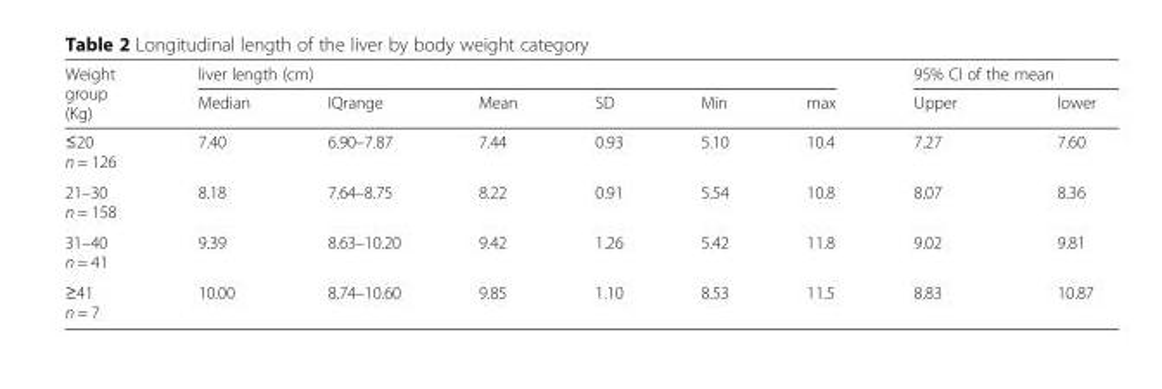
<table><thead><tr><td rowspan="2">Weight group (Kg)</td><td colspan="6">liver length (cm)</td><td colspan="2">95% CI of the mean</td></tr><tr><td>Median</td><td>IQrange</td><td>Mean</td><td>SD</td><td>Min</td><td>max</td><td>Upper</td><td>lower</td></tr></thead><tbody><tr><td>≤20 n = 126</td><td>7.40</td><td>6.90–7.87</td><td>7.44</td><td>0.93</td><td>5.10</td><td>10.4</td><td>7.27</td><td>7.60</td></tr><tr><td>21–30 n = 158</td><td>8.18</td><td>7.64–8.75</td><td>8.22</td><td>0.91</td><td>5.54</td><td>10.8</td><td>8.07</td><td>8.36</td></tr><tr><td>31–40 n = 41</td><td>9.39</td><td>8.63–10.20</td><td>9.42</td><td>1.26</td><td>5.42</td><td>11.8</td><td>9.02</td><td>9.81</td></tr><tr><td>≥41 n = 7</td><td>10.00</td><td>8.74–10.60</td><td>9.85</td><td>1.10</td><td>8.53</td><td>11.5</td><td>8.83</td><td>10.87</td></tr></tbody></table>